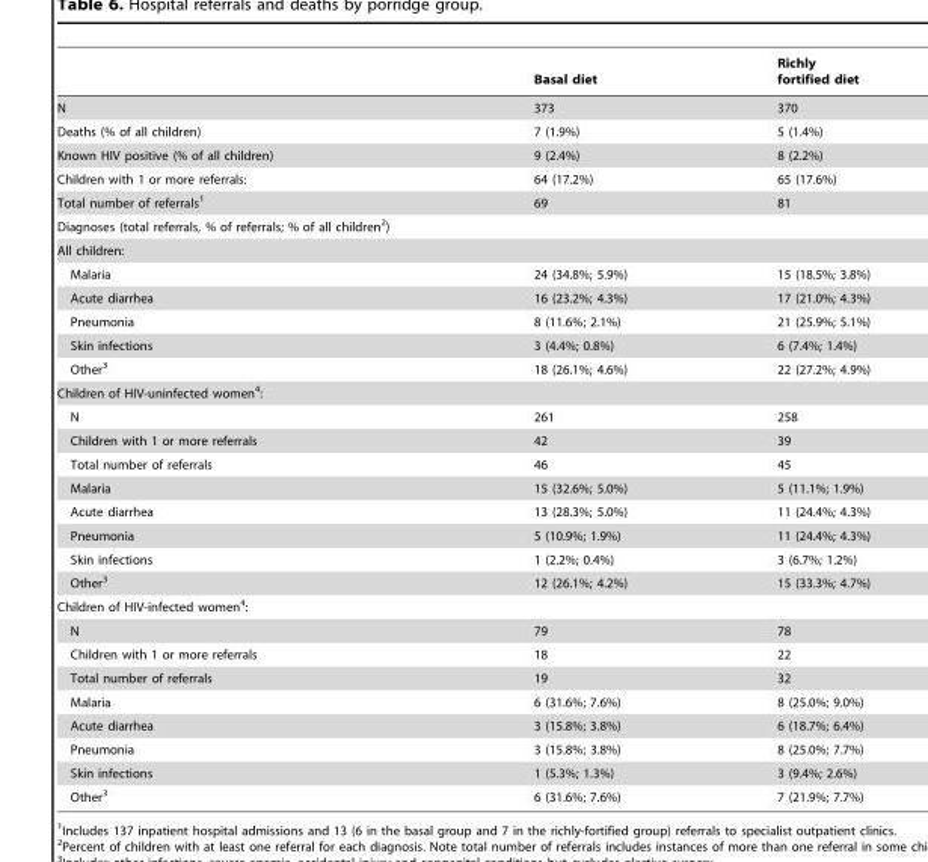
<table><thead><tr><td></td><td>Basal diet</td><td>Richly fortified diet</td></tr></thead><tbody><tr><td>N</td><td>373</td><td>370</td></tr><tr><td>Deaths (% of all children)</td><td>7 (1.9%)</td><td>5 (1.4%)</td></tr><tr><td>Known HIV positive (% of all children)</td><td>9 (2.4%)</td><td>8 (2.2%)</td></tr><tr><td>Children with 1 or more referrals:</td><td>64 (17.2%)</td><td>65 (17.6%)</td></tr><tr><td>Total number of referrals<sup>1</sup></td><td>69</td><td>81</td></tr><tr><td colspan="3">Diagnoses (total referrals, % of referrals; % of all children<sup>2</sup>)</td></tr><tr><td colspan="3">All children:</td></tr><tr><td>Malaria</td><td>24 (34.8%; 5.9%)</td><td>15 (18.5%; 3.8%)</td></tr><tr><td>Acute diarrhea</td><td>16 (23.2%; 4.3%)</td><td>17 (21.0%; 4.3%)</td></tr><tr><td>Pneumonia</td><td>8 (11.6%; 2.1%)</td><td>21 (25.9%; 5.1%)</td></tr><tr><td>Skin infections</td><td>3 (4.4%; 0.8%)</td><td>6 (7.4%; 1.4%)</td></tr><tr><td>Other<sup>3</sup></td><td>18 (26.1%; 4.6%)</td><td>22 (27.2%; 4.9%)</td></tr><tr><td colspan="3">Children of HIV-uninfected women<sup>4</sup>:</td></tr><tr><td>N</td><td>261</td><td>258</td></tr><tr><td>Children with 1 or more referrals</td><td>42</td><td>39</td></tr><tr><td>Total number of referrals</td><td>46</td><td>45</td></tr><tr><td>Malaria</td><td>15 (32.6%; 5.0%)</td><td>5 (11.1%; 1.9%)</td></tr><tr><td>Acute diarrhea</td><td>13 (28.3%; 5.0%)</td><td>11 (24.4%; 4.3%)</td></tr><tr><td>Pneumonia</td><td>5 (10.9%; 1.9%)</td><td>11 (24.4%; 4.3%)</td></tr><tr><td>Skin infections</td><td>1 (2.2%; 0.4%)</td><td>3 (6.7%; 1.2%)</td></tr><tr><td>Other<sup>3</sup></td><td>12 (26.1%; 4.2%)</td><td>15 (33.3%; 4.7%)</td></tr><tr><td colspan="3">Children of HIV-infected women<sup>4</sup>:</td></tr><tr><td>N</td><td>79</td><td>78</td></tr><tr><td>Children with 1 or more referrals</td><td>18</td><td>22</td></tr><tr><td>Total number of referrals</td><td>19</td><td>32</td></tr><tr><td>Malaria</td><td>6 (31.6%; 7.6%)</td><td>8 (25.0%; 9.0%)</td></tr><tr><td>Acute diarrhea</td><td>3 (15.8%; 3.8%)</td><td>6 (18.7%; 6.4%)</td></tr><tr><td>Pneumonia</td><td>3 (15.8%; 3.8%)</td><td>8 (25.0%; 7.7%)</td></tr><tr><td>Skin infections</td><td>1 (5.3%; 1.3%)</td><td>3 (9.4%; 2.6%)</td></tr><tr><td>Other<sup>3</sup></td><td>6 (31.6%; 7.6%)</td><td>7 (21.9%; 7.7%)</td></tr></tbody></table>